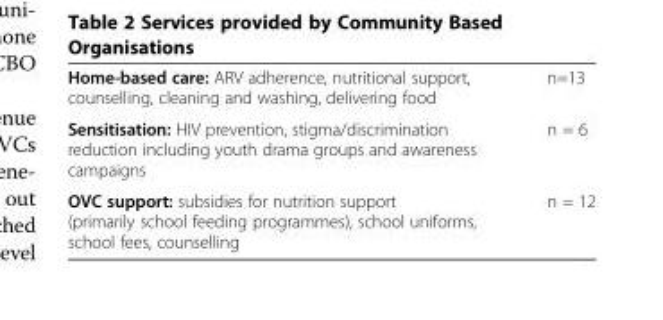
<table><tbody><tr><td>Home-based care: ARV adherence, nutritional support, counselling, cleaning and washing, delivering food</td><td>n=13</td></tr><tr><td>Sensitisation: HIV prevention, stigma/discrimination reduction including youth drama groups and awareness campaigns</td><td>n = 6</td></tr><tr><td>OVC support: subsidies for nutrition support (primarily school feeding programmes), school uniforms, school fees, counselling</td><td>n = 12</td></tr></tbody></table>